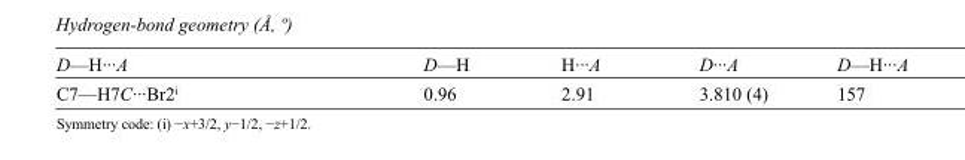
<table><tbody><tr><td>D—H···A</td><td>D—H</td><td>H···A</td><td>D···A</td><td>D—H···A</td></tr><tr><td>C7—H7C···Br2<sup>i</sup></td><td>0.96</td><td>2.91</td><td>3.810 (4)</td><td>157</td></tr></tbody></table>